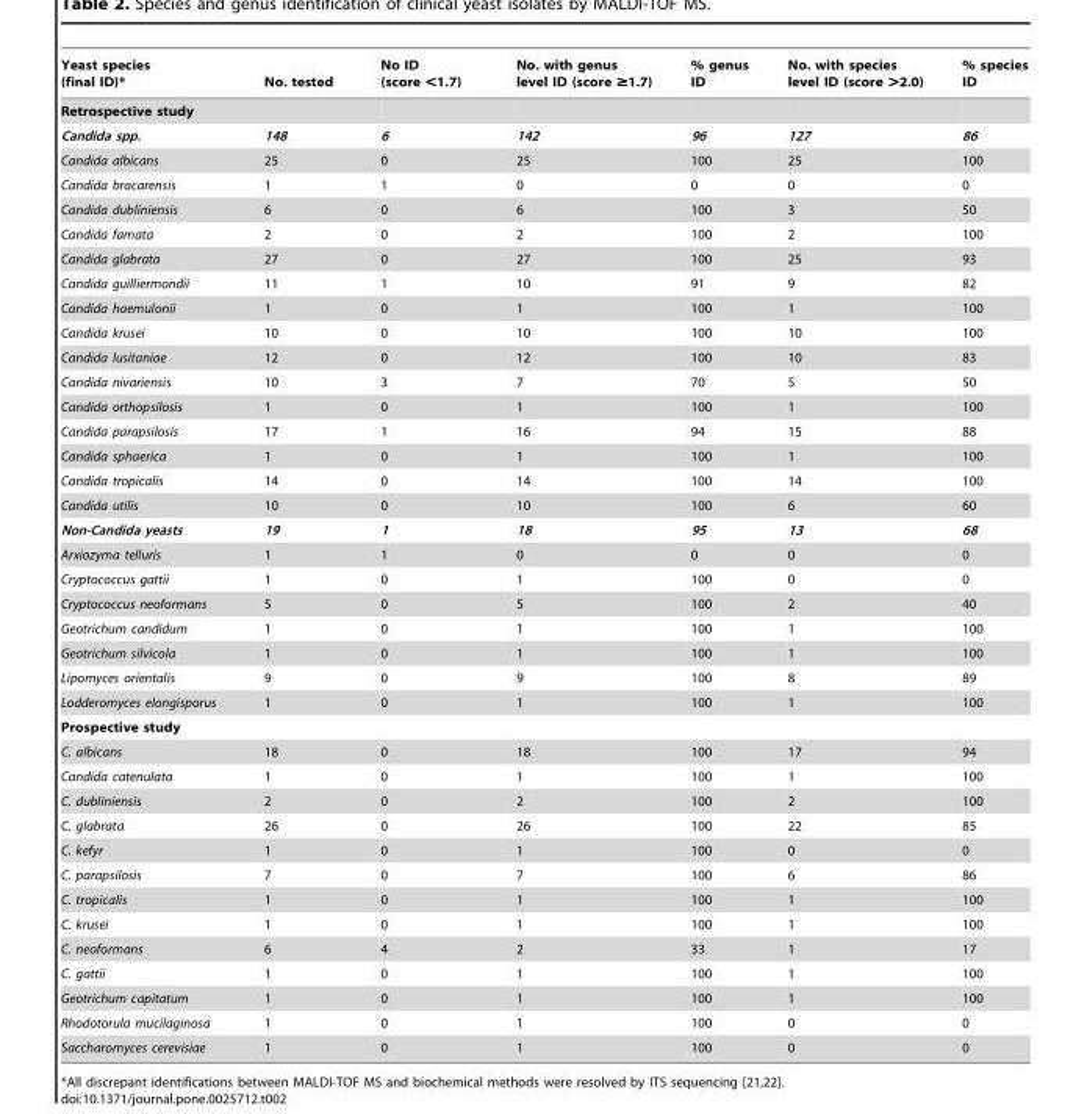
<table><thead><tr><td>Yeast species (final ID)*</td><td>No. tested</td><td>No ID (score &lt;1.7)</td><td>No. with genus level ID (score ≥1.7)</td><td>% genus ID</td><td>No. with species level ID (score &gt;2.0)</td><td>% species ID</td></tr></thead><tbody><tr><td colspan="7">Retrospective study</td></tr><tr><td>Candida spp.</td><td>148</td><td>6</td><td>142</td><td>96</td><td>127</td><td>86</td></tr><tr><td>Candida albicans</td><td>25</td><td>0</td><td>25</td><td>100</td><td>25</td><td>100</td></tr><tr><td>Candida bracarensis</td><td>1</td><td>1</td><td>0</td><td>0</td><td>0</td><td>0</td></tr><tr><td>Candida dubliniensis</td><td>6</td><td>0</td><td>6</td><td>100</td><td>3</td><td>50</td></tr><tr><td>Candida famata</td><td>2</td><td>0</td><td>2</td><td>100</td><td>2</td><td>100</td></tr><tr><td>Candida glabrata</td><td>27</td><td>0</td><td>27</td><td>100</td><td>25</td><td>93</td></tr><tr><td>Candida guilliermondii</td><td>11</td><td>1</td><td>10</td><td>91</td><td>9</td><td>82</td></tr><tr><td>Candida haemulonii</td><td>1</td><td>0</td><td>1</td><td>100</td><td>1</td><td>100</td></tr><tr><td>Candida krusei</td><td>10</td><td>0</td><td>10</td><td>100</td><td>10</td><td>100</td></tr><tr><td>Candida lusitaniae</td><td>12</td><td>0</td><td>12</td><td>100</td><td>10</td><td>83</td></tr><tr><td>Candida nivariensis</td><td>10</td><td>3</td><td>7</td><td>70</td><td>5</td><td>50</td></tr><tr><td>Candida orthopsilosis</td><td>1</td><td>0</td><td>1</td><td>100</td><td>1</td><td>100</td></tr><tr><td>Candida parapsilosis</td><td>17</td><td>1</td><td>16</td><td>94</td><td>15</td><td>88</td></tr><tr><td>Candida sphaerica</td><td>1</td><td>0</td><td>1</td><td>100</td><td>1</td><td>100</td></tr><tr><td>Candida tropicalis</td><td>14</td><td>0</td><td>14</td><td>100</td><td>14</td><td>100</td></tr><tr><td>Candida utilis</td><td>10</td><td>0</td><td>10</td><td>100</td><td>6</td><td>60</td></tr><tr><td>Non-Candida yeasts</td><td>19</td><td>1</td><td>18</td><td>95</td><td>13</td><td>68</td></tr><tr><td>Arxiozyma telluris</td><td>1</td><td>1</td><td>0</td><td>0</td><td>0</td><td>0</td></tr><tr><td>Cryptococcus gattii</td><td>1</td><td>0</td><td>1</td><td>100</td><td>0</td><td>0</td></tr><tr><td>Cryptococcus neoformans</td><td>5</td><td>0</td><td>5</td><td>100</td><td>2</td><td>40</td></tr><tr><td>Geotrichum candidum</td><td>1</td><td>0</td><td>1</td><td>100</td><td>1</td><td>100</td></tr><tr><td>Geotrichum silvicola</td><td>1</td><td>0</td><td>1</td><td>100</td><td>1</td><td>100</td></tr><tr><td>Lipomyces orientalis</td><td>9</td><td>0</td><td>9</td><td>100</td><td>8</td><td>89</td></tr><tr><td>Lodderomyces elongisporus</td><td>1</td><td>0</td><td>1</td><td>100</td><td>1</td><td>100</td></tr><tr><td colspan="7">Prospective study</td></tr><tr><td>C. albicans</td><td>18</td><td>0</td><td>18</td><td>100</td><td>17</td><td>94</td></tr><tr><td>Candida catenulata</td><td>1</td><td>0</td><td>1</td><td>100</td><td>1</td><td>100</td></tr><tr><td>C. dubliniensis</td><td>2</td><td>0</td><td>2</td><td>100</td><td>2</td><td>100</td></tr><tr><td>C. glabrata</td><td>26</td><td>0</td><td>26</td><td>100</td><td>22</td><td>85</td></tr><tr><td>C. kefyr</td><td>1</td><td>0</td><td>1</td><td>100</td><td>0</td><td>0</td></tr><tr><td>C. parapsilosis</td><td>7</td><td>0</td><td>7</td><td>100</td><td>6</td><td>86</td></tr><tr><td>C. tropicalis</td><td>1</td><td>0</td><td>1</td><td>100</td><td>1</td><td>100</td></tr><tr><td>C. krusei</td><td>1</td><td>0</td><td>1</td><td>100</td><td>1</td><td>100</td></tr><tr><td>C. neoformans</td><td>6</td><td>4</td><td>2</td><td>33</td><td>1</td><td>17</td></tr><tr><td>C. gattii</td><td>1</td><td>0</td><td>1</td><td>100</td><td>1</td><td>100</td></tr><tr><td>Geotrichum capitatum</td><td>1</td><td>0</td><td>1</td><td>100</td><td>1</td><td>100</td></tr><tr><td>Rhodotorula mucilaginosa</td><td>1</td><td>0</td><td>1</td><td>100</td><td>0</td><td>0</td></tr><tr><td>Saccharomyces cerevisiae</td><td>1</td><td>0</td><td>1</td><td>100</td><td>0</td><td>0</td></tr></tbody></table>